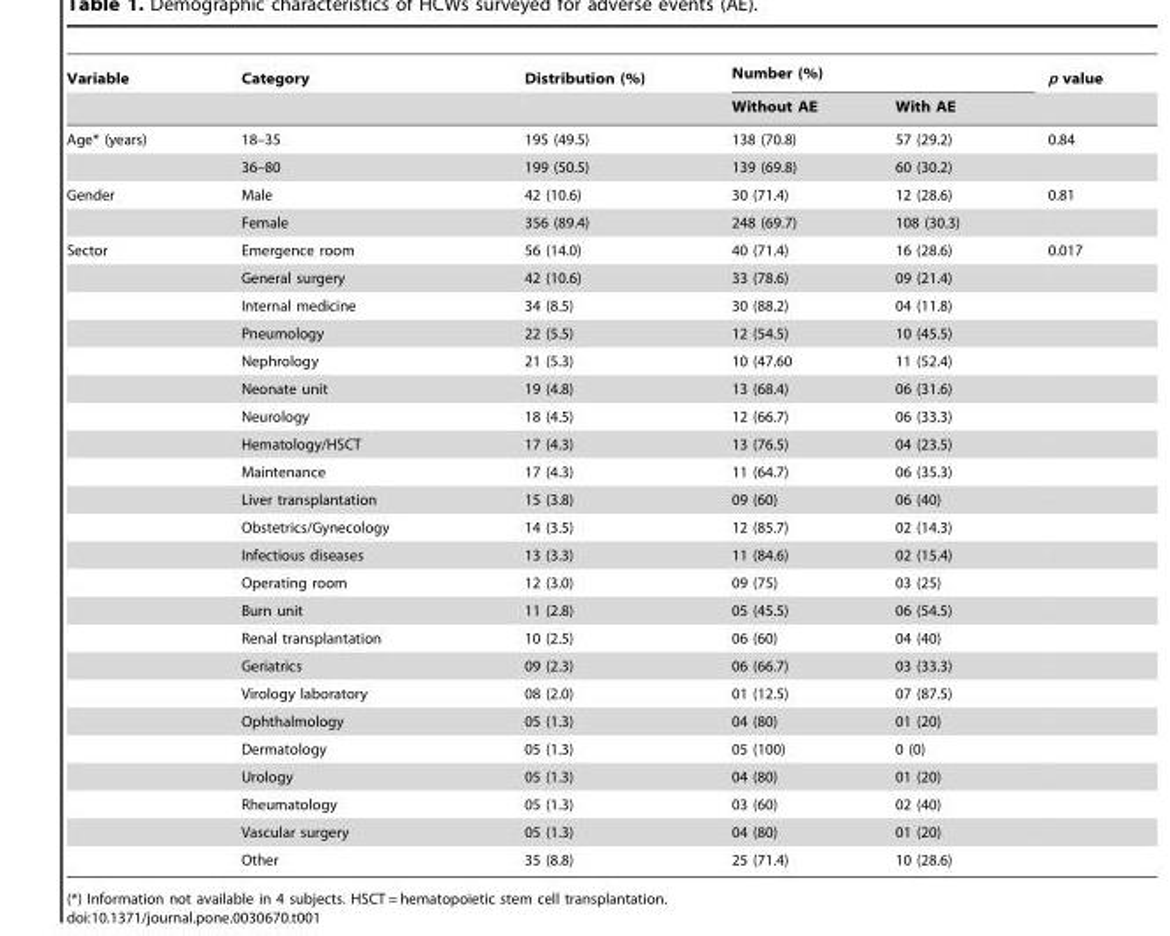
<table><thead><tr><td rowspan="2">Variable</td><td rowspan="2">Category</td><td rowspan="2">Distribution (%)</td><td colspan="2">Number (%)</td><td rowspan="2">p value</td></tr><tr><td>Without AE</td><td>With AE</td></tr></thead><tbody><tr><td rowspan="2">Age* (years)</td><td>18–35</td><td>195 (49.5)</td><td>138 (70.8)</td><td>57 (29.2)</td><td>0.84</td></tr><tr><td>36–80</td><td>199 (50.5)</td><td>139 (69.8)</td><td>60 (30.2)</td><td></td></tr><tr><td rowspan="2">Gender</td><td>Male</td><td>42 (10.6)</td><td>30 (71.4)</td><td>12 (28.6)</td><td>0.81</td></tr><tr><td>Female</td><td>356 (89.4)</td><td>248 (69.7)</td><td>108 (30.3)</td><td></td></tr><tr><td rowspan="23">Sector</td><td>Emergence room</td><td>56 (14.0)</td><td>40 (71.4)</td><td>16 (28.6)</td><td>0.017</td></tr><tr><td>General surgery</td><td>42 (10.6)</td><td>33 (78.6)</td><td>09 (21.4)</td><td></td></tr><tr><td>Internal medicine</td><td>34 (8.5)</td><td>30 (88.2)</td><td>04 (11.8)</td><td></td></tr><tr><td>Pneumology</td><td>22 (5.5)</td><td>12 (54.5)</td><td>10 (45.5)</td><td></td></tr><tr><td>Nephrology</td><td>21 (5.3)</td><td>10 (47.60</td><td>11 (52.4)</td><td></td></tr><tr><td>Neonate unit</td><td>19 (4.8)</td><td>13 (68.4)</td><td>06 (31.6)</td><td></td></tr><tr><td>Neurology</td><td>18 (4.5)</td><td>12 (66.7)</td><td>06 (33.3)</td><td></td></tr><tr><td>Hematology/HSCT</td><td>17 (4.3)</td><td>13 (76.5)</td><td>04 (23.5)</td><td></td></tr><tr><td>Maintenance</td><td>17 (4.3)</td><td>11 (64.7)</td><td>06 (35.3)</td><td></td></tr><tr><td>Liver transplantation</td><td>15 (3.8)</td><td>09 (60)</td><td>06 (40)</td><td></td></tr><tr><td>Obstetrics/Gynecology</td><td>14 (3.5)</td><td>12 (85.7)</td><td>02 (14.3)</td><td></td></tr><tr><td>Infectious diseases</td><td>13 (3.3)</td><td>11 (84.6)</td><td>02 (15.4)</td><td></td></tr><tr><td>Operating room</td><td>12 (3.0)</td><td>09 (75)</td><td>03 (25)</td><td></td></tr><tr><td>Burn unit</td><td>11 (2.8)</td><td>05 (45.5)</td><td>06 (54.5)</td><td></td></tr><tr><td>Renal transplantation</td><td>10 (2.5)</td><td>06 (60)</td><td>04 (40)</td><td></td></tr><tr><td>Geriatrics</td><td>09 (2.3)</td><td>06 (66.7)</td><td>03 (33.3)</td><td></td></tr><tr><td>Virology laboratory</td><td>08 (2.0)</td><td>01 (12.5)</td><td>07 (87.5)</td><td></td></tr><tr><td>Ophthalmology</td><td>05 (1.3)</td><td>04 (80)</td><td>01 (20)</td><td></td></tr><tr><td>Dermatology</td><td>05 (1.3)</td><td>05 (100)</td><td>0 (0)</td><td></td></tr><tr><td>Urology</td><td>05 (1.3)</td><td>04 (80)</td><td>01 (20)</td><td></td></tr><tr><td>Rheumatology</td><td>05 (1.3)</td><td>03 (60)</td><td>02 (40)</td><td></td></tr><tr><td>Vascular surgery</td><td>05 (1.3)</td><td>04 (80)</td><td>01 (20)</td><td></td></tr><tr><td>Other</td><td>35 (8.8)</td><td>25 (71.4)</td><td>10 (28.6)</td><td></td></tr></tbody></table>